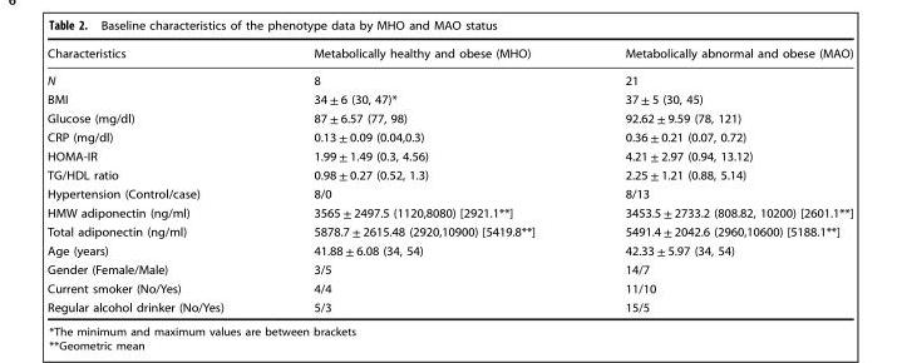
<table><thead><tr><td>Characteristics</td><td>Metabolically healthy and obese (MHO)</td><td>Metabolically abnormal and obese (MAO)</td></tr></thead><tbody><tr><td>N</td><td>8</td><td>21</td></tr><tr><td>BMI</td><td>34 ± 6 (30, 47)*</td><td>37 ± 5 (30, 45)</td></tr><tr><td>Glucose (mg/dl)</td><td>87 ± 6.57 (77, 98)</td><td>92.62 ± 9.59 (78, 121)</td></tr><tr><td>CRP (mg/dl)</td><td>0.13 ± 0.09 (0.04,0.3)</td><td>0.36 ± 0.21 (0.07, 0.72)</td></tr><tr><td>HOMA-IR</td><td>1.99 ± 1.49 (0.3, 4.56)</td><td>4.21 ± 2.97 (0.94, 13.12)</td></tr><tr><td>TG/HDL ratio</td><td>0.98 ± 0.27 (0.52, 1.3)</td><td>2.25 ± 1.21 (0.88, 5.14)</td></tr><tr><td>Hypertension (Control/case)</td><td>8/0</td><td>8/13</td></tr><tr><td>HMW adiponectin (ng/ml)</td><td>3565 ± 2497.5 (1120,8080) [2921.1**]</td><td>3453.5 ± 2733.2 (808.82, 10200) [2601.1**]</td></tr><tr><td>Total adiponectin (ng/ml)</td><td>5878.7 ± 2615.48 (2920,10900) [5419.8**]</td><td>5491.4 ± 2042.6 (2960,10600) [5188.1**]</td></tr><tr><td>Age (years)</td><td>41.88 ± 6.08 (34, 54)</td><td>42.33 ± 5.97 (34, 54)</td></tr><tr><td>Gender (Female/Male)</td><td>3/5</td><td>14/7</td></tr><tr><td>Current smoker (No/Yes)</td><td>4/4</td><td>11/10</td></tr><tr><td>Regular alcohol drinker (No/Yes)</td><td>5/3</td><td>15/5</td></tr></tbody></table>